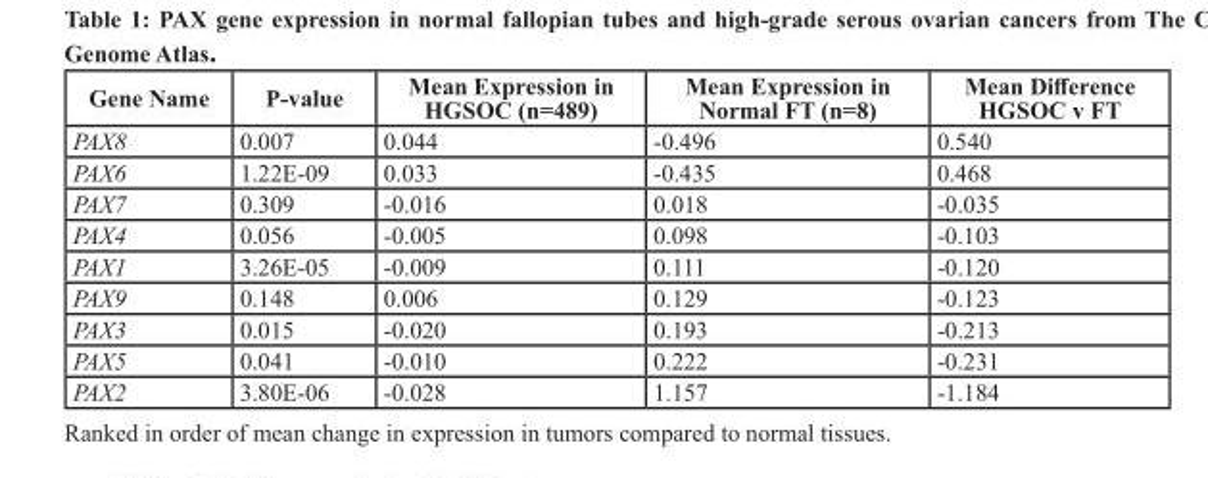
<table><thead><tr><td>Gene Name</td><td>P-value</td><td>Mean Expression in HGSOC (n=489)</td><td>Mean Expression in Normal FT (n=8)</td><td>Mean Difference HGSOC v FT</td></tr></thead><tbody><tr><td>PAX8</td><td>0.007</td><td>0.044</td><td>-0.496</td><td>0.540</td></tr><tr><td>PAX6</td><td>1.22E-09</td><td>0.033</td><td>-0.435</td><td>0.468</td></tr><tr><td>PAX7</td><td>0.309</td><td>-0.016</td><td>0.018</td><td>-0.035</td></tr><tr><td>PAX4</td><td>0.056</td><td>-0.005</td><td>0.098</td><td>-0.103</td></tr><tr><td>PAX1</td><td>3.26E-05</td><td>-0.009</td><td>0.111</td><td>-0.120</td></tr><tr><td>PAX9</td><td>0.148</td><td>0.006</td><td>0.129</td><td>-0.123</td></tr><tr><td>PAX3</td><td>0.015</td><td>-0.020</td><td>0.193</td><td>-0.213</td></tr><tr><td>PAX5</td><td>0.041</td><td>-0.010</td><td>0.222</td><td>-0.231</td></tr><tr><td>PAX2</td><td>3.80E-06</td><td>-0.028</td><td>1.157</td><td>-1.184</td></tr></tbody></table>